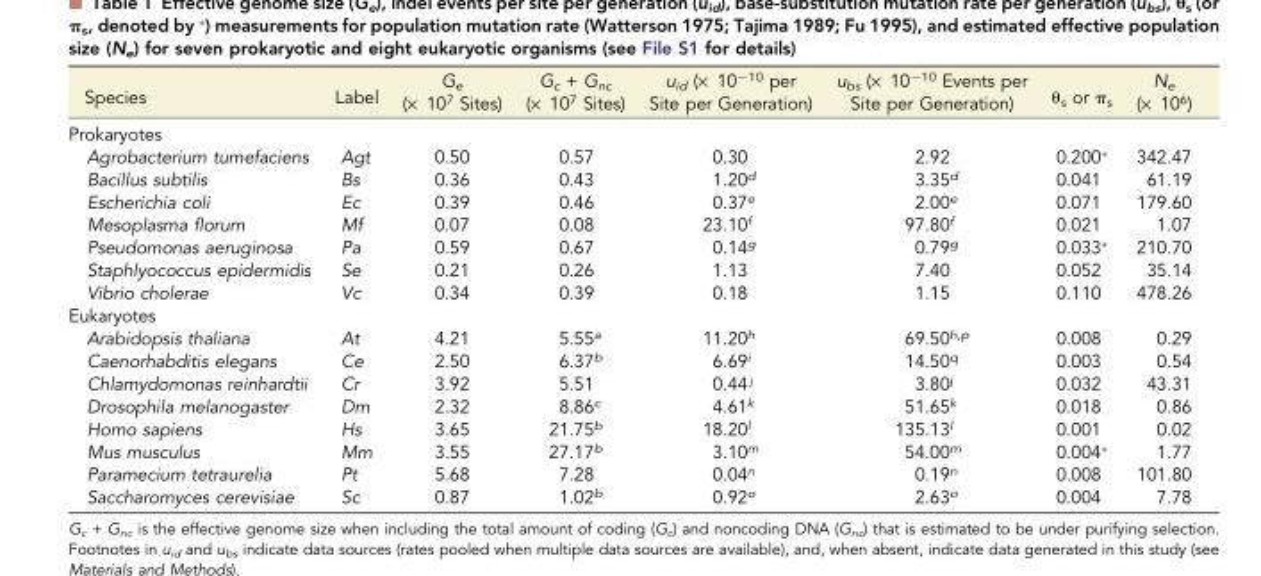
<table><thead><tr><td>Species</td><td>Label</td><td>G<sub>e</sub> (× 10<sup>7</sup> Sites)</td><td>G<sub>c</sub> + G<sub>nc</sub> (× 10<sup>7</sup> Sites)</td><td>u<sub>id</sub> (× 10<sup>−10</sup> per Site per Generation)</td><td>u<sub>bs</sub> (× 10<sup>−10</sup> Events per Site per Generation)</td><td>θ<sub>s</sub> or π<sub>s</sub></td><td>N<sub>e</sub> (× 10<sup>6</sup>)</td></tr></thead><tbody><tr><td colspan="8">Prokaryotes</td></tr><tr><td>Agrobacterium tumefaciens</td><td>Agt</td><td>0.50</td><td>0.57</td><td>0.30</td><td>2.92</td><td>0.200*</td><td>342.47</td></tr><tr><td>Bacillus subtilis</td><td>Bs</td><td>0.36</td><td>0.43</td><td>1.20<sup>d</sup></td><td>3.35<sup>d</sup></td><td>0.041</td><td>61.19</td></tr><tr><td>Escherichia coli</td><td>Ec</td><td>0.39</td><td>0.46</td><td>0.37<sup>e</sup></td><td>2.00<sup>e</sup></td><td>0.071</td><td>179.60</td></tr><tr><td>Mesoplasma florum</td><td>Mf</td><td>0.07</td><td>0.08</td><td>23.10<sup>f</sup></td><td>97.80<sup>f</sup></td><td>0.021</td><td>1.07</td></tr><tr><td>Pseudomonas aeruginosa</td><td>Pa</td><td>0.59</td><td>0.67</td><td>0.14<sup>g</sup></td><td>0.79<sup>g</sup></td><td>0.033*</td><td>210.70</td></tr><tr><td>Staphlyococcus epidermidis</td><td>Se</td><td>0.21</td><td>0.26</td><td>1.13</td><td>7.40</td><td>0.052</td><td>35.14</td></tr><tr><td>Vibrio cholerae</td><td>Vc</td><td>0.34</td><td>0.39</td><td>0.18</td><td>1.15</td><td>0.110</td><td>478.26</td></tr><tr><td colspan="8">Eukaryotes</td></tr><tr><td>Arabidopsis thaliana</td><td>At</td><td>4.21</td><td>5.55<sup>a</sup></td><td>11.20<sup>h</sup></td><td>69.50<sup>h,p</sup></td><td>0.008</td><td>0.29</td></tr><tr><td>Caenorhabditis elegans</td><td>Ce</td><td>2.50</td><td>6.37<sup>b</sup></td><td>6.69<sup>i</sup></td><td>14.50<sup>q</sup></td><td>0.003</td><td>0.54</td></tr><tr><td>Chlamydomonas reinhardtii</td><td>Cr</td><td>3.92</td><td>5.51</td><td>0.44<sup>j</sup></td><td>3.80<sup>j</sup></td><td>0.032</td><td>43.31</td></tr><tr><td>Drosophila melanogaster</td><td>Dm</td><td>2.32</td><td>8.86<sup>c</sup></td><td>4.61<sup>k</sup></td><td>51.65<sup>k</sup></td><td>0.018</td><td>0.86</td></tr><tr><td>Homo sapiens</td><td>Hs</td><td>3.65</td><td>21.75<sup>b</sup></td><td>18.20<sup>l</sup></td><td>135.13<sup>l</sup></td><td>0.001</td><td>0.02</td></tr><tr><td>Mus musculus</td><td>Mm</td><td>3.55</td><td>27.17<sup>b</sup></td><td>3.10<sup>m</sup></td><td>54.00<sup>m</sup></td><td>0.004*</td><td>1.77</td></tr><tr><td>Paramecium tetraurelia</td><td>Pt</td><td>5.68</td><td>7.28</td><td>0.04<sup>n</sup></td><td>0.19<sup>n</sup></td><td>0.008</td><td>101.80</td></tr><tr><td>Saccharomyces cerevisiae</td><td>Sc</td><td>0.87</td><td>1.02<sup>b</sup></td><td>0.92<sup>o</sup></td><td>2.63<sup>o</sup></td><td>0.004</td><td>7.78</td></tr></tbody></table>